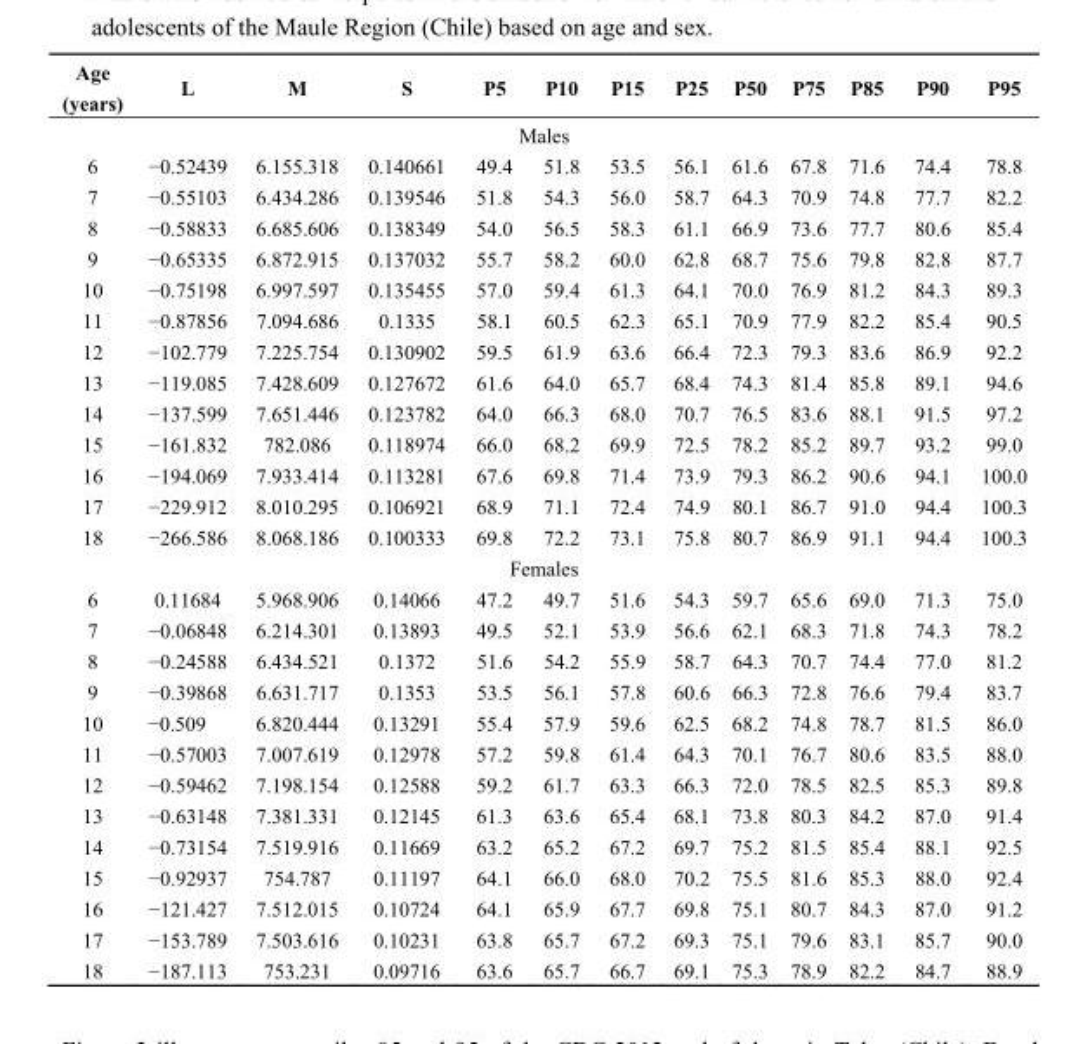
<table><thead><tr><td>Age (years)</td><td>L</td><td>M</td><td>S</td><td>P5</td><td>P10</td><td>P15</td><td>P25</td><td>P50</td><td>P75</td><td>P85</td><td>P90</td><td>P95</td></tr></thead><tbody><tr><td colspan="13">Males</td></tr><tr><td>6</td><td>−0.52439</td><td>6.155.318</td><td>0.140661</td><td>49.4</td><td>51.8</td><td>53.5</td><td>56.1</td><td>61.6</td><td>67.8</td><td>71.6</td><td>74.4</td><td>78.8</td></tr><tr><td>7</td><td>−0.55103</td><td>6.434.286</td><td>0.139546</td><td>51.8</td><td>54.3</td><td>56.0</td><td>58.7</td><td>64.3</td><td>70.9</td><td>74.8</td><td>77.7</td><td>82.2</td></tr><tr><td>8</td><td>−0.58833</td><td>6.685.606</td><td>0.138349</td><td>54.0</td><td>56.5</td><td>58.3</td><td>61.1</td><td>66.9</td><td>73.6</td><td>77.7</td><td>80.6</td><td>85.4</td></tr><tr><td>9</td><td>−0.65335</td><td>6.872.915</td><td>0.137032</td><td>55.7</td><td>58.2</td><td>60.0</td><td>62.8</td><td>68.7</td><td>75.6</td><td>79.8</td><td>82.8</td><td>87.7</td></tr><tr><td>10</td><td>−0.75198</td><td>6.997.597</td><td>0.135455</td><td>57.0</td><td>59.4</td><td>61.3</td><td>64.1</td><td>70.0</td><td>76.9</td><td>81.2</td><td>84.3</td><td>89.3</td></tr><tr><td>11</td><td>−0.87856</td><td>7.094.686</td><td>0.1335</td><td>58.1</td><td>60.5</td><td>62.3</td><td>65.1</td><td>70.9</td><td>77.9</td><td>82.2</td><td>85.4</td><td>90.5</td></tr><tr><td>12</td><td>−102.779</td><td>7.225.754</td><td>0.130902</td><td>59.5</td><td>61.9</td><td>63.6</td><td>66.4</td><td>72.3</td><td>79.3</td><td>83.6</td><td>86.9</td><td>92.2</td></tr><tr><td>13</td><td>−119.085</td><td>7.428.609</td><td>0.127672</td><td>61.6</td><td>64.0</td><td>65.7</td><td>68.4</td><td>74.3</td><td>81.4</td><td>85.8</td><td>89.1</td><td>94.6</td></tr><tr><td>14</td><td>−137.599</td><td>7.651.446</td><td>0.123782</td><td>64.0</td><td>66.3</td><td>68.0</td><td>70.7</td><td>76.5</td><td>83.6</td><td>88.1</td><td>91.5</td><td>97.2</td></tr><tr><td>15</td><td>−161.832</td><td>782.086</td><td>0.118974</td><td>66.0</td><td>68.2</td><td>69.9</td><td>72.5</td><td>78.2</td><td>85.2</td><td>89.7</td><td>93.2</td><td>99.0</td></tr><tr><td>16</td><td>−194.069</td><td>7.933.414</td><td>0.113281</td><td>67.6</td><td>69.8</td><td>71.4</td><td>73.9</td><td>79.3</td><td>86.2</td><td>90.6</td><td>94.1</td><td>100.0</td></tr><tr><td>17</td><td>−229.912</td><td>8.010.295</td><td>0.106921</td><td>68.9</td><td>71.1</td><td>72.4</td><td>74.9</td><td>80.1</td><td>86.7</td><td>91.0</td><td>94.4</td><td>100.3</td></tr><tr><td>18</td><td>−266.586</td><td>8.068.186</td><td>0.100333</td><td>69.8</td><td>72.2</td><td>73.1</td><td>75.8</td><td>80.7</td><td>86.9</td><td>91.1</td><td>94.4</td><td>100.3</td></tr><tr><td colspan="13">Females</td></tr><tr><td>6</td><td>0.11684</td><td>5.968.906</td><td>0.14066</td><td>47.2</td><td>49.7</td><td>51.6</td><td>54.3</td><td>59.7</td><td>65.6</td><td>69.0</td><td>71.3</td><td>75.0</td></tr><tr><td>7</td><td>−0.06848</td><td>6.214.301</td><td>0.13893</td><td>49.5</td><td>52.1</td><td>53.9</td><td>56.6</td><td>62.1</td><td>68.3</td><td>71.8</td><td>74.3</td><td>78.2</td></tr><tr><td>8</td><td>−0.24588</td><td>6.434.521</td><td>0.1372</td><td>51.6</td><td>54.2</td><td>55.9</td><td>58.7</td><td>64.3</td><td>70.7</td><td>74.4</td><td>77.0</td><td>81.2</td></tr><tr><td>9</td><td>−0.39868</td><td>6.631.717</td><td>0.1353</td><td>53.5</td><td>56.1</td><td>57.8</td><td>60.6</td><td>66.3</td><td>72.8</td><td>76.6</td><td>79.4</td><td>83.7</td></tr><tr><td>10</td><td>−0.509</td><td>6.820.444</td><td>0.13291</td><td>55.4</td><td>57.9</td><td>59.6</td><td>62.5</td><td>68.2</td><td>74.8</td><td>78.7</td><td>81.5</td><td>86.0</td></tr><tr><td>11</td><td>−0.57003</td><td>7.007.619</td><td>0.12978</td><td>57.2</td><td>59.8</td><td>61.4</td><td>64.3</td><td>70.1</td><td>76.7</td><td>80.6</td><td>83.5</td><td>88.0</td></tr><tr><td>12</td><td>−0.59462</td><td>7.198.154</td><td>0.12588</td><td>59.2</td><td>61.7</td><td>63.3</td><td>66.3</td><td>72.0</td><td>78.5</td><td>82.5</td><td>85.3</td><td>89.8</td></tr><tr><td>13</td><td>−0.63148</td><td>7.381.331</td><td>0.12145</td><td>61.3</td><td>63.6</td><td>65.4</td><td>68.1</td><td>73.8</td><td>80.3</td><td>84.2</td><td>87.0</td><td>91.4</td></tr><tr><td>14</td><td>−0.73154</td><td>7.519.916</td><td>0.11669</td><td>63.2</td><td>65.2</td><td>67.2</td><td>69.7</td><td>75.2</td><td>81.5</td><td>85.4</td><td>88.1</td><td>92.5</td></tr><tr><td>15</td><td>−0.92937</td><td>754.787</td><td>0.11197</td><td>64.1</td><td>66.0</td><td>68.0</td><td>70.2</td><td>75.5</td><td>81.6</td><td>85.3</td><td>88.0</td><td>92.4</td></tr><tr><td>16</td><td>−121.427</td><td>7.512.015</td><td>0.10724</td><td>64.1</td><td>65.9</td><td>67.7</td><td>69.8</td><td>75.1</td><td>80.7</td><td>84.3</td><td>87.0</td><td>91.2</td></tr><tr><td>17</td><td>−153.789</td><td>7.503.616</td><td>0.10231</td><td>63.8</td><td>65.7</td><td>67.2</td><td>69.3</td><td>75.1</td><td>79.6</td><td>83.1</td><td>85.7</td><td>90.0</td></tr><tr><td>18</td><td>−187.113</td><td>753.231</td><td>0.09716</td><td>63.6</td><td>65.7</td><td>66.7</td><td>69.1</td><td>75.3</td><td>78.9</td><td>82.2</td><td>84.7</td><td>88.9</td></tr></tbody></table>